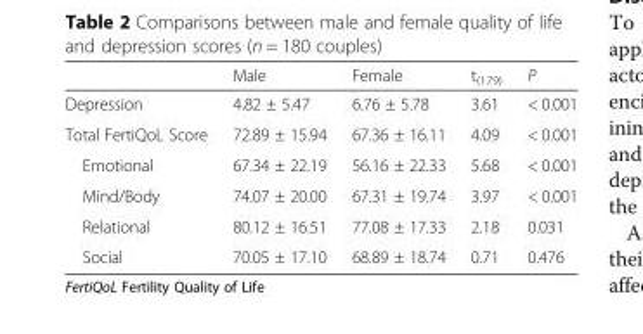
<table><thead><tr><td></td><td>Male</td><td>Female</td><td>t<sub>(179)</sub></td><td>P</td></tr></thead><tbody><tr><td>Depression</td><td>4.82 ± 5.47</td><td>6.76 ± 5.78</td><td>3.61</td><td>&lt; 0.001</td></tr><tr><td>Total FertiQoL Score</td><td>72.89 ± 15.94</td><td>67.36 ± 16.11</td><td>4.09</td><td>&lt; 0.001</td></tr><tr><td>Emotional</td><td>67.34 ± 22.19</td><td>56.16 ± 22.33</td><td>5.68</td><td>&lt; 0.001</td></tr><tr><td>Mind/Body</td><td>74.07 ± 20.00</td><td>67.31 ± 19.74</td><td>3.97</td><td>&lt; 0.001</td></tr><tr><td>Relational</td><td>80.12 ± 16.51</td><td>77.08 ± 17.33</td><td>2.18</td><td>0.031</td></tr><tr><td>Social</td><td>70.05 ± 17.10</td><td>68.89 ± 18.74</td><td>0.71</td><td>0.476</td></tr></tbody></table>